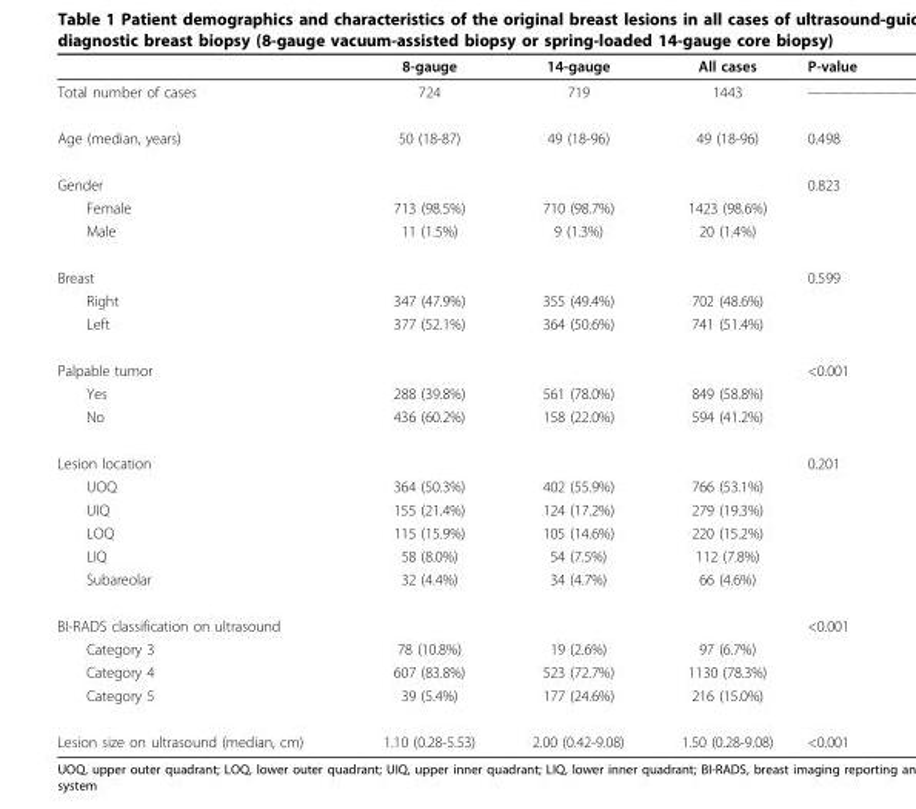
<table><thead><tr><td></td><td>8-gauge</td><td>14-gauge</td><td>All cases</td><td>P-value</td></tr></thead><tbody><tr><td>Total number of cases</td><td>724</td><td>719</td><td>1443</td><td></td></tr><tr><td>Age (median, years)</td><td>50 (18-87)</td><td>49 (18-96)</td><td>49 (18-96)</td><td>0.498</td></tr><tr><td>Gender</td><td></td><td></td><td></td><td>0.823</td></tr><tr><td>Female</td><td>713 (98.5%)</td><td>710 (98.7%)</td><td>1423 (98.6%)</td><td></td></tr><tr><td>Male</td><td>11 (1.5%)</td><td>9 (1.3%)</td><td>20 (1.4%)</td><td></td></tr><tr><td>Breast</td><td></td><td></td><td></td><td>0.599</td></tr><tr><td>Right</td><td>347 (47.9%)</td><td>355 (49.4%)</td><td>702 (48.6%)</td><td></td></tr><tr><td>Left</td><td>377 (52.1%)</td><td>364 (50.6%)</td><td>741 (51.4%)</td><td></td></tr><tr><td>Palpable tumor</td><td></td><td></td><td></td><td>&lt;0.001</td></tr><tr><td>Yes</td><td>288 (39.8%)</td><td>561 (78.0%)</td><td>849 (58.8%)</td><td></td></tr><tr><td>No</td><td>436 (60.2%)</td><td>158 (22.0%)</td><td>594 (41.2%)</td><td></td></tr><tr><td>Lesion location</td><td></td><td></td><td></td><td>0.201</td></tr><tr><td>UOQ</td><td>364 (50.3%)</td><td>402 (55.9%)</td><td>766 (53.1%)</td><td></td></tr><tr><td>UIQ</td><td>155 (21.4%)</td><td>124 (17.2%)</td><td>279 (19.3%)</td><td></td></tr><tr><td>LOQ</td><td>115 (15.9%)</td><td>105 (14.6%)</td><td>220 (15.2%)</td><td></td></tr><tr><td>LIQ</td><td>58 (8.0%)</td><td>54 (7.5%)</td><td>112 (7.8%)</td><td></td></tr><tr><td>Subareolar</td><td>32 (4.4%)</td><td>34 (4.7%)</td><td>66 (4.6%)</td><td></td></tr><tr><td>BI-RADS classification on ultrasound</td><td></td><td></td><td></td><td>&lt;0.001</td></tr><tr><td>Category 3</td><td>78 (10.8%)</td><td>19 (2.6%)</td><td>97 (6.7%)</td><td></td></tr><tr><td>Category 4</td><td>607 (83.8%)</td><td>523 (72.7%)</td><td>1130 (78.3%)</td><td></td></tr><tr><td>Category 5</td><td>39 (5.4%)</td><td>177 (24.6%)</td><td>216 (15.0%)</td><td></td></tr><tr><td>Lesion size on ultrasound (median, cm)</td><td>1.10 (0.28-5.53)</td><td>2.00 (0.42-9.08)</td><td>1.50 (0.28-9.08)</td><td>&lt;0.001</td></tr></tbody></table>